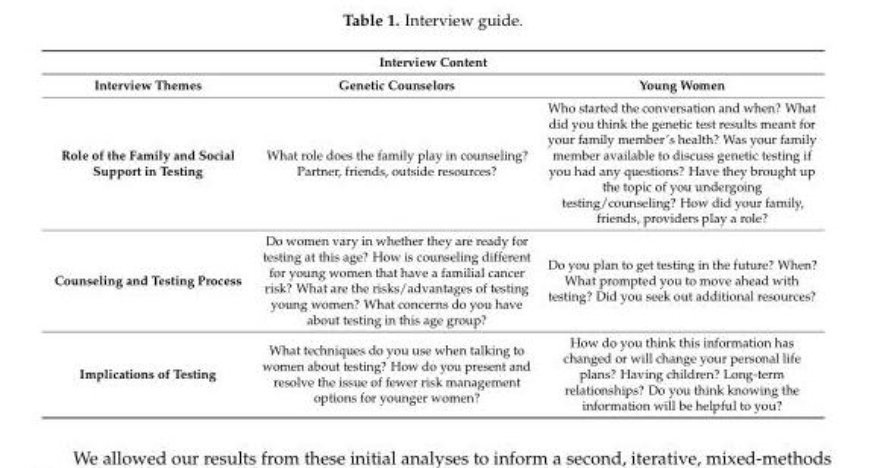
<table><thead><tr><td colspan="3">Interview Content</td></tr><tr><td>Interview Themes</td><td>Genetic Counselors</td><td>Young Women</td></tr></thead><tbody><tr><td>Role of the Family and Social Support in Testing</td><td>What role does the family play in counseling? Partner, friends, outside resources?</td><td>Who started the conversation and when? What did you think the genetic test results meant for your family member’s health? Was your family member available to discuss genetic testing if you had any questions? Have they brought up the topic of you undergoing testing/counseling? How did your family, friends, providers play a role?</td></tr><tr><td>Counseling and Testing Process</td><td>Do women vary in whether they are ready for testing at this age? How is counseling different for young women that have a familial cancer risk? What are the risks/advantages of testing young women? What concerns do you have about testing in this age group?</td><td>Do you plan to get testing in the future? When? What prompted you to move ahead with testing? Did you seek out additional resources?</td></tr><tr><td>Implications of Testing</td><td>What techniques do you use when talking to women about testing? How do you present and resolve the issue of fewer risk management options for younger women?</td><td>How do you think this information has changed or will change your personal life plans? Having children? Long-term relationships? Do you think knowing the information will be helpful to you?</td></tr></tbody></table>